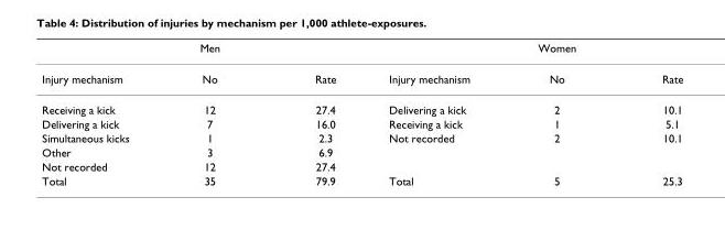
<table><thead><tr><td colspan="3">Men</td><td colspan="3">Women</td></tr><tr><td>Injury mechanism</td><td>No</td><td>Rate</td><td>Injury mechanism</td><td>No</td><td>Rate</td></tr></thead><tbody><tr><td>Receiving a kick</td><td>12</td><td>27.4</td><td>Delivering a kick</td><td>2</td><td>10.1</td></tr><tr><td>Delivering a kick</td><td>7</td><td>16.0</td><td>Receiving a kick</td><td>1</td><td>5.1</td></tr><tr><td>Simultaneous kicks</td><td>1</td><td>2.3</td><td>Not recorded</td><td>2</td><td>10.1</td></tr><tr><td>Other</td><td>3</td><td>6.9</td><td></td><td></td><td></td></tr><tr><td>Not recorded</td><td>12</td><td>27.4</td><td></td><td></td><td></td></tr><tr><td>Total</td><td>35</td><td>79.9</td><td>Total</td><td>5</td><td>25.3</td></tr></tbody></table>